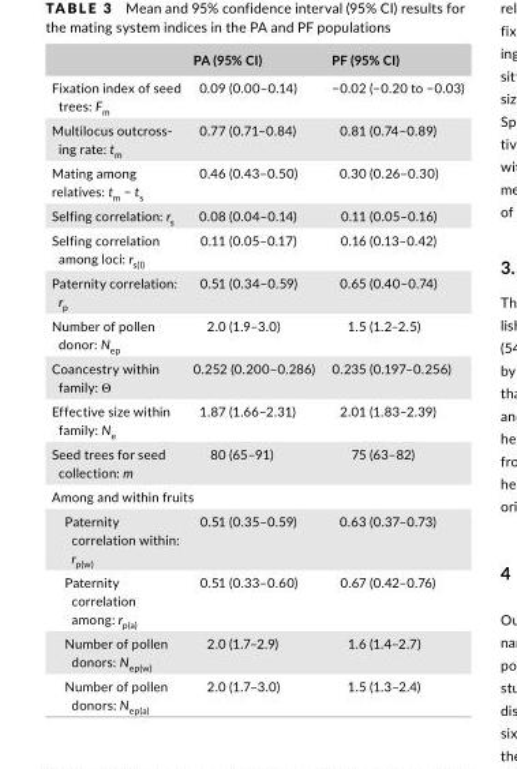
<table><thead><tr><td></td><td>PA (95% CI)</td><td>PF (95% CI)</td></tr></thead><tbody><tr><td>Fixation index of seed trees: F<sub>m</sub></td><td>0.09 (0.00–0.14)</td><td>−0.02 (−0.20 to −0.03)</td></tr><tr><td>Multilocus outcross- ing rate: tm</td><td>0.77 (0.71–0.84)</td><td>0.81 (0.74–0.89)</td></tr><tr><td>Mating among relatives: t<sub>m</sub> − t<sub>s</sub></td><td>0.46 (0.43–0.50)</td><td>0.30 (0.26–0.30)</td></tr><tr><td>Selfing correlation: r<sub>s</sub></td><td>0.08 (0.04–0.14)</td><td>0.11 (0.05–0.16)</td></tr><tr><td>Selfing correlation among loci: r<sub>s(l)</sub></td><td>0.11 (0.05–0.17)</td><td>0.16 (0.13–0.42)</td></tr><tr><td>Paternity correlation: r<sub>p</sub></td><td>0.51 (0.34–0.59)</td><td>0.65 (0.40–0.74)</td></tr><tr><td>Number of pollen donor: N<sub>ep</sub></td><td>2.0 (1.9–3.0)</td><td>1.5 (1.2–2.5)</td></tr><tr><td>Coancestry within family: Θ</td><td>0.252 (0.200–0.286)</td><td>0.235 (0.197–0.256)</td></tr><tr><td>Effective size within family: N<sub>e</sub></td><td>1.87 (1.66–2.31)</td><td>2.01 (1.83–2.39)</td></tr><tr><td>Seed trees for seed collection: m</td><td>80 (65–91)</td><td>75 (63–82)</td></tr><tr><td colspan="3">Among and within fruits</td></tr><tr><td>Paternity correlation within: r<sub>p(w)</sub></td><td>0.51 (0.35–0.59)</td><td>0.63 (0.37–0.73)</td></tr><tr><td>Paternity correlation among: r<sub>p(a)</sub></td><td>0.51 (0.33–0.60)</td><td>0.67 (0.42–0.76)</td></tr><tr><td>Number of pollen donors: N<sub>ep(w)</sub></td><td>2.0 (1.7–2.9)</td><td>1.6 (1.4–2.7)</td></tr><tr><td>Number of pollen donors: N<sub>ep(a)</sub></td><td>2.0 (1.7–3.0)</td><td>1.5 (1.3–2.4)</td></tr></tbody></table>